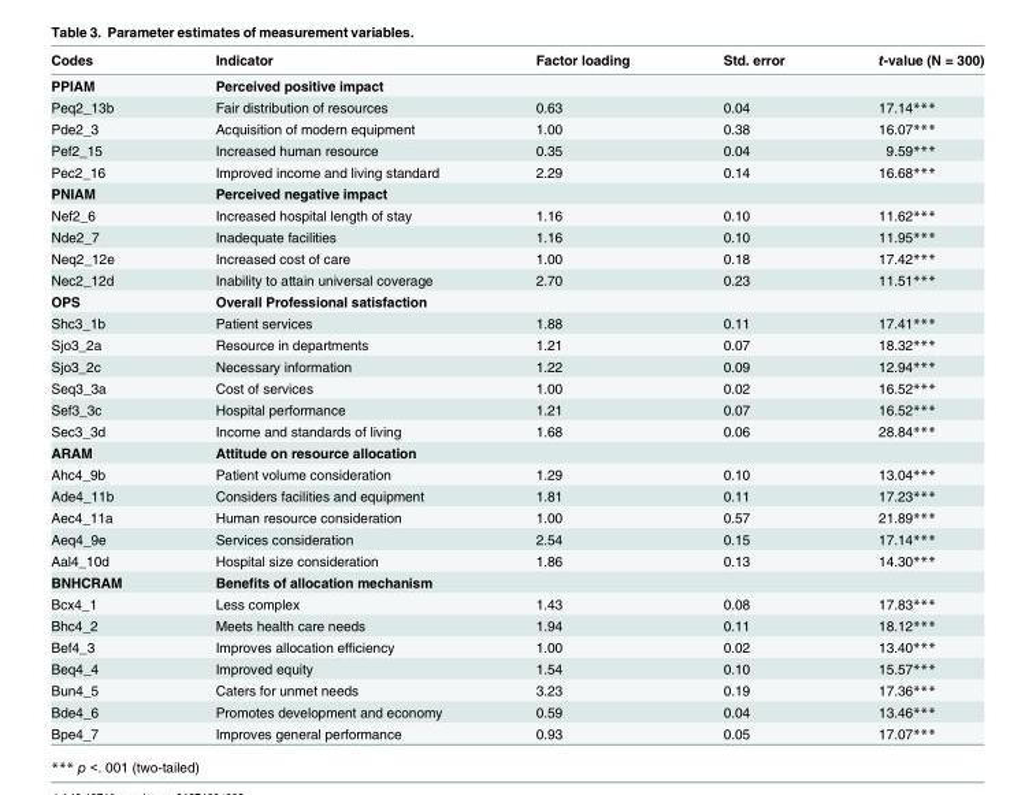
<table><thead><tr><td>Codes</td><td>Indicator</td><td>Factor loading</td><td>Std. error</td><td>t-value (N = 300)</td></tr></thead><tbody><tr><td>PPIAM</td><td>Perceived positive impact</td><td></td><td></td><td></td></tr><tr><td>Peq2_13b</td><td>Fair distribution of resources</td><td>0.63</td><td>0.04</td><td>17.14***</td></tr><tr><td>Pde2_3</td><td>Acquisition of modern equipment</td><td>1.00</td><td>0.38</td><td>16.07***</td></tr><tr><td>Pef2_15</td><td>Increased human resource</td><td>0.35</td><td>0.04</td><td>9.59***</td></tr><tr><td>Pec2_16</td><td>Improved income and living standard</td><td>2.29</td><td>0.14</td><td>16.68***</td></tr><tr><td>PNIAM</td><td>Perceived negative impact</td><td></td><td></td><td></td></tr><tr><td>Nef2_6</td><td>Increased hospital length of stay</td><td>1.16</td><td>0.10</td><td>11.62***</td></tr><tr><td>Nde2_7</td><td>Inadequate facilities</td><td>1.16</td><td>0.10</td><td>11.95***</td></tr><tr><td>Neq2_12e</td><td>Increased cost of care</td><td>1.00</td><td>0.18</td><td>17.42***</td></tr><tr><td>Nec2_12d</td><td>Inability to attain universal coverage</td><td>2.70</td><td>0.23</td><td>11.51***</td></tr><tr><td>OPS</td><td>Overall Professional satisfaction</td><td></td><td></td><td></td></tr><tr><td>Shc3_1b</td><td>Patient services</td><td>1.88</td><td>0.11</td><td>17.41***</td></tr><tr><td>Sjo3_2a</td><td>Resource in departments</td><td>1.21</td><td>0.07</td><td>18.32***</td></tr><tr><td>Sjo3_2c</td><td>Necessary information</td><td>1.22</td><td>0.09</td><td>12.94***</td></tr><tr><td>Seq3_3a</td><td>Cost of services</td><td>1.00</td><td>0.02</td><td>16.52***</td></tr><tr><td>Sef3_3c</td><td>Hospital performance</td><td>1.21</td><td>0.07</td><td>16.52***</td></tr><tr><td>Sec3_3d</td><td>Income and standards of living</td><td>1.68</td><td>0.06</td><td>28.84***</td></tr><tr><td>ARAM</td><td>Attitude on resource allocation</td><td></td><td></td><td></td></tr><tr><td>Ahc4_9b</td><td>Patient volume consideration</td><td>1.29</td><td>0.10</td><td>13.04***</td></tr><tr><td>Ade4_11b</td><td>Considers facilities and equipment</td><td>1.81</td><td>0.11</td><td>17.23***</td></tr><tr><td>Aec4_11a</td><td>Human resource consideration</td><td>1.00</td><td>0.57</td><td>21.89***</td></tr><tr><td>Aeq4_9e</td><td>Services consideration</td><td>2.54</td><td>0.15</td><td>17.14***</td></tr><tr><td>Aal4_10d</td><td>Hospital size consideration</td><td>1.86</td><td>0.13</td><td>14.30***</td></tr><tr><td>BNHCRAM</td><td>Benefits of allocation mechanism</td><td></td><td></td><td></td></tr><tr><td>Bcx4_1</td><td>Less complex</td><td>1.43</td><td>0.08</td><td>17.83***</td></tr><tr><td>Bhc4_2</td><td>Meets health care needs</td><td>1.94</td><td>0.11</td><td>18.12***</td></tr><tr><td>Bef4_3</td><td>Improves allocation efficiency</td><td>1.00</td><td>0.02</td><td>13.40***</td></tr><tr><td>Beq4_4</td><td>Improved equity</td><td>1.54</td><td>0.10</td><td>15.57***</td></tr><tr><td>Bun4_5</td><td>Caters for unmet needs</td><td>3.23</td><td>0.19</td><td>17.36***</td></tr><tr><td>Bde4_6</td><td>Promotes development and economy</td><td>0.59</td><td>0.04</td><td>13.46***</td></tr><tr><td>Bpe4_7</td><td>Improves general performance</td><td>0.93</td><td>0.05</td><td>17.07***</td></tr></tbody></table>